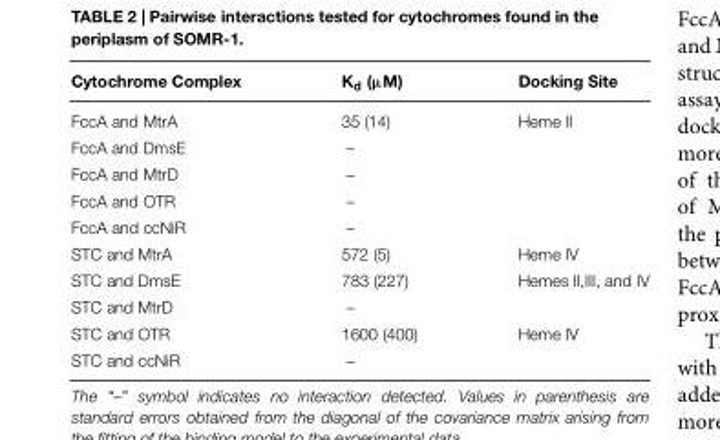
<table><thead><tr><td>Cytochrome Complex</td><td>K<sub>d</sub> (µM)</td><td>Docking Site</td></tr></thead><tbody><tr><td>FccA and MtrA</td><td>35 (14)</td><td>Heme II</td></tr><tr><td>FccA and DmsE</td><td>–</td><td></td></tr><tr><td>FccA and MtrD</td><td>–</td><td></td></tr><tr><td>FccA and OTR</td><td>–</td><td></td></tr><tr><td>FccA and ccNiR</td><td>–</td><td></td></tr><tr><td>STC and MtrA</td><td>572 (5)</td><td>Heme IV</td></tr><tr><td>STC and DmsE</td><td>783 (227)</td><td>Hemes II,III, and IV</td></tr><tr><td>STC and MtrD</td><td>–</td><td></td></tr><tr><td>STC and OTR</td><td>1600 (400)</td><td>Heme IV</td></tr><tr><td>STC and ccNiR</td><td>–</td><td></td></tr></tbody></table>